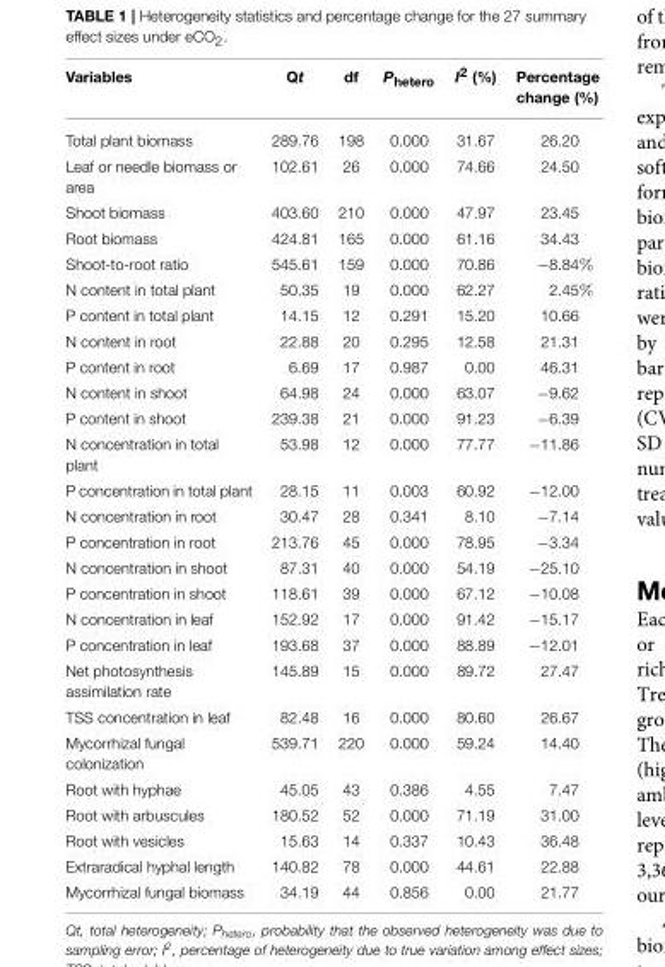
<table><thead><tr><td>Variables</td><td>Qt</td><td>df</td><td>P<sub>hetero</sub></td><td>I<sup>2</sup> (%)</td><td>Percentage change (%)</td></tr></thead><tbody><tr><td>Total plant biomass</td><td>289.76</td><td>198</td><td>0.000</td><td>31.67</td><td>26.20</td></tr><tr><td>Leaf or needle biomass or area</td><td>102.61</td><td>26</td><td>0.000</td><td>74.66</td><td>24.50</td></tr><tr><td>Shoot biomass</td><td>403.60</td><td>210</td><td>0.000</td><td>47.97</td><td>23.45</td></tr><tr><td>Root biomass</td><td>424.81</td><td>165</td><td>0.000</td><td>61.16</td><td>34.43</td></tr><tr><td>Shoot-to-root ratio</td><td>545.61</td><td>159</td><td>0.000</td><td>70.86</td><td>−8.84%</td></tr><tr><td>N content in total plant</td><td>50.35</td><td>19</td><td>0.000</td><td>62.27</td><td>2.45%</td></tr><tr><td>P content in total plant</td><td>14.15</td><td>12</td><td>0.291</td><td>15.20</td><td>10.66</td></tr><tr><td>N content in root</td><td>22.88</td><td>20</td><td>0.295</td><td>12.58</td><td>21.31</td></tr><tr><td>P content in root</td><td>6.69</td><td>17</td><td>0.987</td><td>0.00</td><td>46.31</td></tr><tr><td>N content in shoot</td><td>64.98</td><td>24</td><td>0.000</td><td>63.07</td><td>−9.62</td></tr><tr><td>P content in shoot</td><td>239.38</td><td>21</td><td>0.000</td><td>91.23</td><td>−6.39</td></tr><tr><td>N concentration in total plant</td><td>53.98</td><td>12</td><td>0.000</td><td>77.77</td><td>−11.86</td></tr><tr><td>P concentration in total plant</td><td>28.15</td><td>11</td><td>0.003</td><td>60.92</td><td>−12.00</td></tr><tr><td>N concentration in root</td><td>30.47</td><td>28</td><td>0.341</td><td>8.10</td><td>−7.14</td></tr><tr><td>P concentration in root</td><td>213.76</td><td>45</td><td>0.000</td><td>78.95</td><td>−3.34</td></tr><tr><td>N concentration in shoot</td><td>87.31</td><td>40</td><td>0.000</td><td>54.19</td><td>−25.10</td></tr><tr><td>P concentration in shoot</td><td>118.61</td><td>39</td><td>0.000</td><td>67.12</td><td>−10.08</td></tr><tr><td>N concentration in leaf</td><td>152.92</td><td>17</td><td>0.000</td><td>91.42</td><td>−15.17</td></tr><tr><td>P concentration in leaf</td><td>193.68</td><td>37</td><td>0.000</td><td>88.89</td><td>−12.01</td></tr><tr><td>Net photosynthesis assimilation rate</td><td>145.89</td><td>15</td><td>0.000</td><td>89.72</td><td>27.47</td></tr><tr><td>TSS concentration in leaf</td><td>82.48</td><td>16</td><td>0.000</td><td>80.60</td><td>26.67</td></tr><tr><td>Mycorrhizal fungal colonization</td><td>539.71</td><td>220</td><td>0.000</td><td>59.24</td><td>14.40</td></tr><tr><td>Root with hyphae</td><td>45.05</td><td>43</td><td>0.386</td><td>4.55</td><td>7.47</td></tr><tr><td>Root with arbuscules</td><td>180.52</td><td>52</td><td>0.000</td><td>71.19</td><td>31.00</td></tr><tr><td>Root with vesicles</td><td>15.63</td><td>14</td><td>0.337</td><td>10.43</td><td>36.48</td></tr><tr><td>Extraradical hyphal length</td><td>140.82</td><td>78</td><td>0.000</td><td>44.61</td><td>22.88</td></tr><tr><td>Mycorrhizal fungal biomass</td><td>34.19</td><td>44</td><td>0.856</td><td>0.00</td><td>21.77</td></tr></tbody></table>